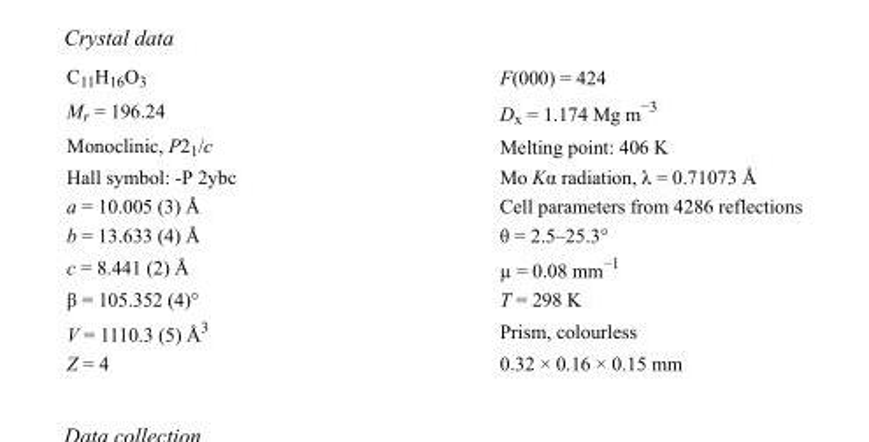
<table><tbody><tr><td>C<sub>11</sub>H<sub>16</sub>O<sub>3</sub></td><td>F(000) = 424</td></tr><tr><td>M<sub>r</sub> = 196.24</td><td>D<sub>x</sub> = 1.174 Mg m<sup>−3</sup></td></tr><tr><td>Monoclinic, P2<sub>1</sub>/c</td><td>Melting point: 406 K</td></tr><tr><td>Hall symbol: -P 2ybc</td><td>Mo Kα radiation, λ = 0.71073 Å</td></tr><tr><td>a = 10.005 (3) Å</td><td>Cell parameters from 4286 reflections</td></tr><tr><td>b = 13.633 (4) Å</td><td>θ = 2.5–25.3°</td></tr><tr><td>c = 8.441 (2) Å</td><td>µ = 0.08 mm<sup>−1</sup></td></tr><tr><td>β = 105.352 (4)°</td><td>T = 298 K</td></tr><tr><td>V = 1110.3 (5) Å<sup>3</sup></td><td>Prism, colourless</td></tr><tr><td>Z = 4</td><td>0.32 × 0.16 × 0.15 mm</td></tr></tbody></table>